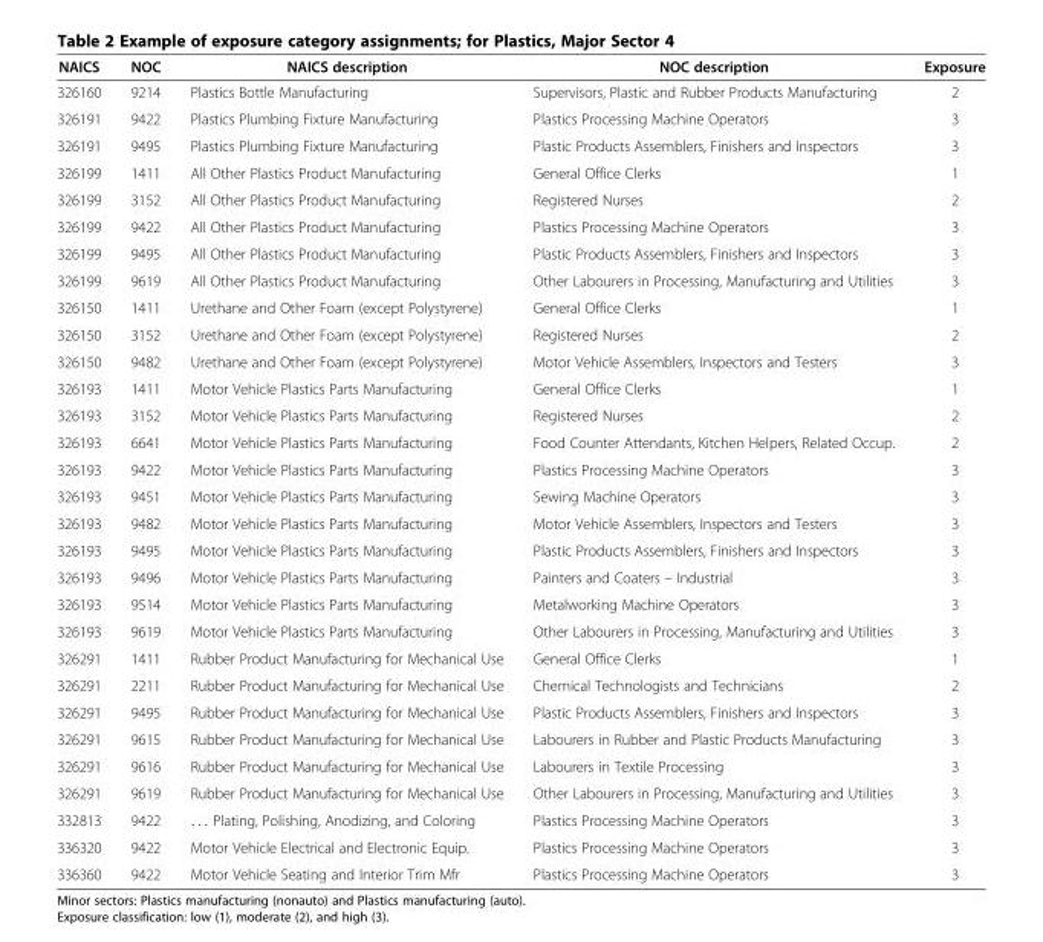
<table><thead><tr><td>NAICS</td><td>NOC</td><td>NAICS description</td><td>NOC description</td><td>Exposure</td></tr></thead><tbody><tr><td>326160</td><td>9214</td><td>Plastics Bottle Manufacturing</td><td>Supervisors, Plastic and Rubber Products Manufacturing</td><td>2</td></tr><tr><td>326191</td><td>9422</td><td>Plastics Plumbing Fixture Manufacturing</td><td>Plastics Processing Machine Operators</td><td>3</td></tr><tr><td>326191</td><td>9495</td><td>Plastics Plumbing Fixture Manufacturing</td><td>Plastic Products Assemblers, Finishers and Inspectors</td><td>3</td></tr><tr><td>326199</td><td>1411</td><td>All Other Plastics Product Manufacturing</td><td>General Office Clerks</td><td>1</td></tr><tr><td>326199</td><td>3152</td><td>All Other Plastics Product Manufacturing</td><td>Registered Nurses</td><td>2</td></tr><tr><td>326199</td><td>9422</td><td>All Other Plastics Product Manufacturing</td><td>Plastics Processing Machine Operators</td><td>3</td></tr><tr><td>326199</td><td>9495</td><td>All Other Plastics Product Manufacturing</td><td>Plastic Products Assemblers, Finishers and Inspectors</td><td>3</td></tr><tr><td>326199</td><td>9619</td><td>All Other Plastics Product Manufacturing</td><td>Other Labourers in Processing, Manufacturing and Utilities</td><td>3</td></tr><tr><td>326150</td><td>1411</td><td>Urethane and Other Foam (except Polystyrene)</td><td>General Office Clerks</td><td>1</td></tr><tr><td>326150</td><td>3152</td><td>Urethane and Other Foam (except Polystyrene)</td><td>Registered Nurses</td><td>2</td></tr><tr><td>326150</td><td>9482</td><td>Urethane and Other Foam (except Polystyrene)</td><td>Motor Vehicle Assemblers, Inspectors and Testers</td><td>3</td></tr><tr><td>326193</td><td>1411</td><td>Motor Vehicle Plastics Parts Manufacturing</td><td>General Office Clerks</td><td>1</td></tr><tr><td>326193</td><td>3152</td><td>Motor Vehicle Plastics Parts Manufacturing</td><td>Registered Nurses</td><td>2</td></tr><tr><td>326193</td><td>6641</td><td>Motor Vehicle Plastics Parts Manufacturing</td><td>Food Counter Attendants, Kitchen Helpers, Related Occup.</td><td>2</td></tr><tr><td>326193</td><td>9422</td><td>Motor Vehicle Plastics Parts Manufacturing</td><td>Plastics Processing Machine Operators</td><td>3</td></tr><tr><td>326193</td><td>9451</td><td>Motor Vehicle Plastics Parts Manufacturing</td><td>Sewing Machine Operators</td><td>3</td></tr><tr><td>326193</td><td>9482</td><td>Motor Vehicle Plastics Parts Manufacturing</td><td>Motor Vehicle Assemblers, Inspectors and Testers</td><td>3</td></tr><tr><td>326193</td><td>9495</td><td>Motor Vehicle Plastics Parts Manufacturing</td><td>Plastic Products Assemblers, Finishers and Inspectors</td><td>3</td></tr><tr><td>326193</td><td>9496</td><td>Motor Vehicle Plastics Parts Manufacturing</td><td>Painters and Coaters – Industrial</td><td>3</td></tr><tr><td>326193</td><td>9514</td><td>Motor Vehicle Plastics Parts Manufacturing</td><td>Metalworking Machine Operators</td><td>3</td></tr><tr><td>326193</td><td>9619</td><td>Motor Vehicle Plastics Parts Manufacturing</td><td>Other Labourers in Processing, Manufacturing and Utilities</td><td>3</td></tr><tr><td>326291</td><td>1411</td><td>Rubber Product Manufacturing for Mechanical Use</td><td>General Office Clerks</td><td>1</td></tr><tr><td>326291</td><td>2211</td><td>Rubber Product Manufacturing for Mechanical Use</td><td>Chemical Technologists and Technicians</td><td>2</td></tr><tr><td>326291</td><td>9495</td><td>Rubber Product Manufacturing for Mechanical Use</td><td>Plastic Products Assemblers, Finishers and Inspectors</td><td>3</td></tr><tr><td>326291</td><td>9615</td><td>Rubber Product Manufacturing for Mechanical Use</td><td>Labourers in Rubber and Plastic Products Manufacturing</td><td>3</td></tr><tr><td>326291</td><td>9616</td><td>Rubber Product Manufacturing for Mechanical Use</td><td>Labourers in Textile Processing</td><td>3</td></tr><tr><td>326291</td><td>9619</td><td>Rubber Product Manufacturing for Mechanical Use</td><td>Other Labourers in Processing, Manufacturing and Utilities</td><td>3</td></tr><tr><td>332813</td><td>9422</td><td>. . . Plating, Polishing, Anodizing, and Coloring</td><td>Plastics Processing Machine Operators</td><td>3</td></tr><tr><td>336320</td><td>9422</td><td>Motor Vehicle Electrical and Electronic Equip.</td><td>Plastics Processing Machine Operators</td><td>3</td></tr><tr><td>336360</td><td>9422</td><td>Motor Vehicle Seating and Interior Trim Mfr</td><td>Plastics Processing Machine Operators</td><td>3</td></tr></tbody></table>